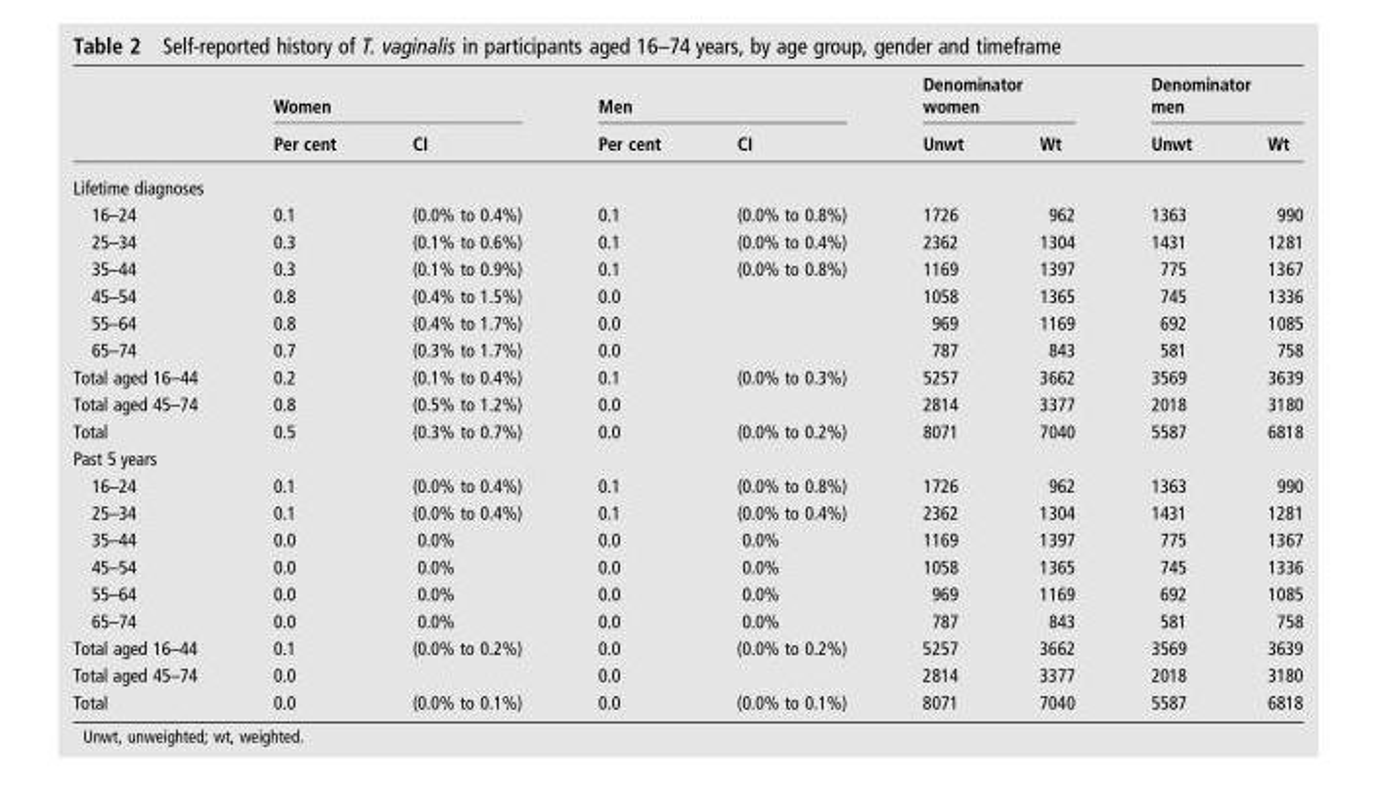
<table><thead><tr><td rowspan="2"></td><td colspan="2">Women</td><td colspan="2">Men</td><td colspan="2">Denominator women</td><td colspan="2">Denominator men</td></tr><tr><td>Per cent</td><td>CI</td><td>Per cent</td><td>CI</td><td>Unwt</td><td>Wt</td><td>Unwt</td><td>Wt</td></tr></thead><tbody><tr><td colspan="9">Lifetime diagnoses</td></tr><tr><td>16–24</td><td>0.1</td><td>(0.0% to 0.4%)</td><td>0.1</td><td>(0.0% to 0.8%)</td><td>1726</td><td>962</td><td>1363</td><td>990</td></tr><tr><td>25–34</td><td>0.3</td><td>(0.1% to 0.6%)</td><td>0.1</td><td>(0.0% to 0.4%)</td><td>2362</td><td>1304</td><td>1431</td><td>1281</td></tr><tr><td>35–44</td><td>0.3</td><td>(0.1% to 0.9%)</td><td>0.1</td><td>(0.0% to 0.8%)</td><td>1169</td><td>1397</td><td>775</td><td>1367</td></tr><tr><td>45–54</td><td>0.8</td><td>(0.4% to 1.5%)</td><td>0.0</td><td></td><td>1058</td><td>1365</td><td>745</td><td>1336</td></tr><tr><td>55–64</td><td>0.8</td><td>(0.4% to 1.7%)</td><td>0.0</td><td></td><td>969</td><td>1169</td><td>692</td><td>1085</td></tr><tr><td>65–74</td><td>0.7</td><td>(0.3% to 1.7%)</td><td>0.0</td><td></td><td>787</td><td>843</td><td>581</td><td>758</td></tr><tr><td>Total aged 16–44</td><td>0.2</td><td>(0.1% to 0.4%)</td><td>0.1</td><td>(0.0% to 0.3%)</td><td>5257</td><td>3662</td><td>3569</td><td>3639</td></tr><tr><td>Total aged 45–74</td><td>0.8</td><td>(0.5% to 1.2%)</td><td>0.0</td><td></td><td>2814</td><td>3377</td><td>2018</td><td>3180</td></tr><tr><td>Total</td><td>0.5</td><td>(0.3% to 0.7%)</td><td>0.0</td><td>(0.0% to 0.2%)</td><td>8071</td><td>7040</td><td>5587</td><td>6818</td></tr><tr><td colspan="9">Past 5 years</td></tr><tr><td>16–24</td><td>0.1</td><td>(0.0% to 0.4%)</td><td>0.1</td><td>(0.0% to 0.8%)</td><td>1726</td><td>962</td><td>1363</td><td>990</td></tr><tr><td>25–34</td><td>0.1</td><td>(0.0% to 0.4%)</td><td>0.1</td><td>(0.0% to 0.4%)</td><td>2362</td><td>1304</td><td>1431</td><td>1281</td></tr><tr><td>35–44</td><td>0.0</td><td>0.0%</td><td>0.0</td><td>0.0%</td><td>1169</td><td>1397</td><td>775</td><td>1367</td></tr><tr><td>45–54</td><td>0.0</td><td>0.0%</td><td>0.0</td><td>0.0%</td><td>1058</td><td>1365</td><td>745</td><td>1336</td></tr><tr><td>55–64</td><td>0.0</td><td>0.0%</td><td>0.0</td><td>0.0%</td><td>969</td><td>1169</td><td>692</td><td>1085</td></tr><tr><td>65–74</td><td>0.0</td><td>0.0%</td><td>0.0</td><td>0.0%</td><td>787</td><td>843</td><td>581</td><td>758</td></tr><tr><td>Total aged 16–44</td><td>0.1</td><td>(0.0% to 0.2%)</td><td>0.0</td><td>(0.0% to 0.2%)</td><td>5257</td><td>3662</td><td>3569</td><td>3639</td></tr><tr><td>Total aged 45–74</td><td>0.0</td><td></td><td>0.0</td><td></td><td>2814</td><td>3377</td><td>2018</td><td>3180</td></tr><tr><td>Total</td><td>0.0</td><td>(0.0% to 0.1%)</td><td>0.0</td><td>(0.0% to 0.1%)</td><td>8071</td><td>7040</td><td>5587</td><td>6818</td></tr></tbody></table>